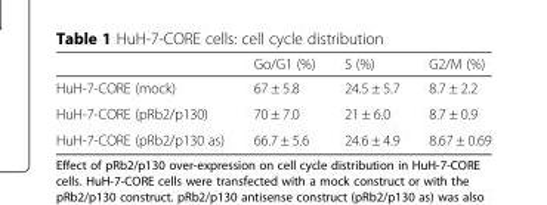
<table><thead><tr><td></td><td>Go/G1 (%)</td><td>S (%)</td><td>G2/M (%)</td></tr></thead><tbody><tr><td>HuH-7-CORE (mock)</td><td>67 ± 5.8</td><td>24.5 ± 5.7</td><td>8.7 ± 2.2</td></tr><tr><td>HuH-7-CORE (pRb2/p130)</td><td>70 ± 7.0</td><td>21 ± 6.0</td><td>8.7 ± 0.9</td></tr><tr><td>HuH-7-CORE (pRb2/p130 as)</td><td>66.7 ± 5.6</td><td>24.6 ± 4.9</td><td>8.67 ± 0.69</td></tr></tbody></table>